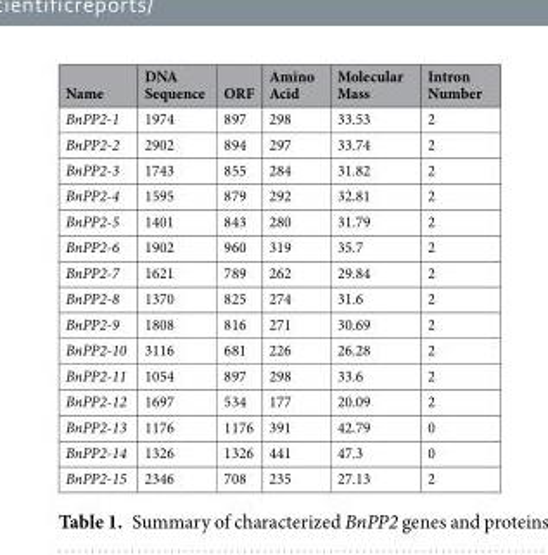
<table><thead><tr><td>Name</td><td>DNA Sequence</td><td>ORF</td><td>Amino Acid</td><td>Molecular Mass</td><td>Intron Number</td></tr></thead><tbody><tr><td>BnPP2-1</td><td>1974</td><td>897</td><td>298</td><td>33.53</td><td>2</td></tr><tr><td>BnPP2-2</td><td>2902</td><td>894</td><td>297</td><td>33.74</td><td>2</td></tr><tr><td>BnPP2-3</td><td>1743</td><td>855</td><td>284</td><td>31.82</td><td>2</td></tr><tr><td>BnPP2-4</td><td>1595</td><td>879</td><td>292</td><td>32.81</td><td>2</td></tr><tr><td>BnPP2-5</td><td>1401</td><td>843</td><td>280</td><td>31.79</td><td>2</td></tr><tr><td>BnPP2-6</td><td>1902</td><td>960</td><td>319</td><td>35.7</td><td>2</td></tr><tr><td>BnPP2-7</td><td>1621</td><td>789</td><td>262</td><td>29.84</td><td>2</td></tr><tr><td>BnPP2-8</td><td>1370</td><td>825</td><td>274</td><td>31.6</td><td>2</td></tr><tr><td>BnPP2-9</td><td>1808</td><td>816</td><td>271</td><td>30.69</td><td>2</td></tr><tr><td>BnPP2-10</td><td>3116</td><td>681</td><td>226</td><td>26.28</td><td>2</td></tr><tr><td>BnPP2-11</td><td>1054</td><td>897</td><td>298</td><td>33.6</td><td>2</td></tr><tr><td>BnPP2-12</td><td>1697</td><td>534</td><td>177</td><td>20.09</td><td>2</td></tr><tr><td>BnPP2-13</td><td>1176</td><td>1176</td><td>391</td><td>42.79</td><td>0</td></tr><tr><td>BnPP2-14</td><td>1326</td><td>1326</td><td>441</td><td>47.3</td><td>0</td></tr><tr><td>BnPP2-15</td><td>2346</td><td>708</td><td>235</td><td>27.13</td><td>2</td></tr></tbody></table>